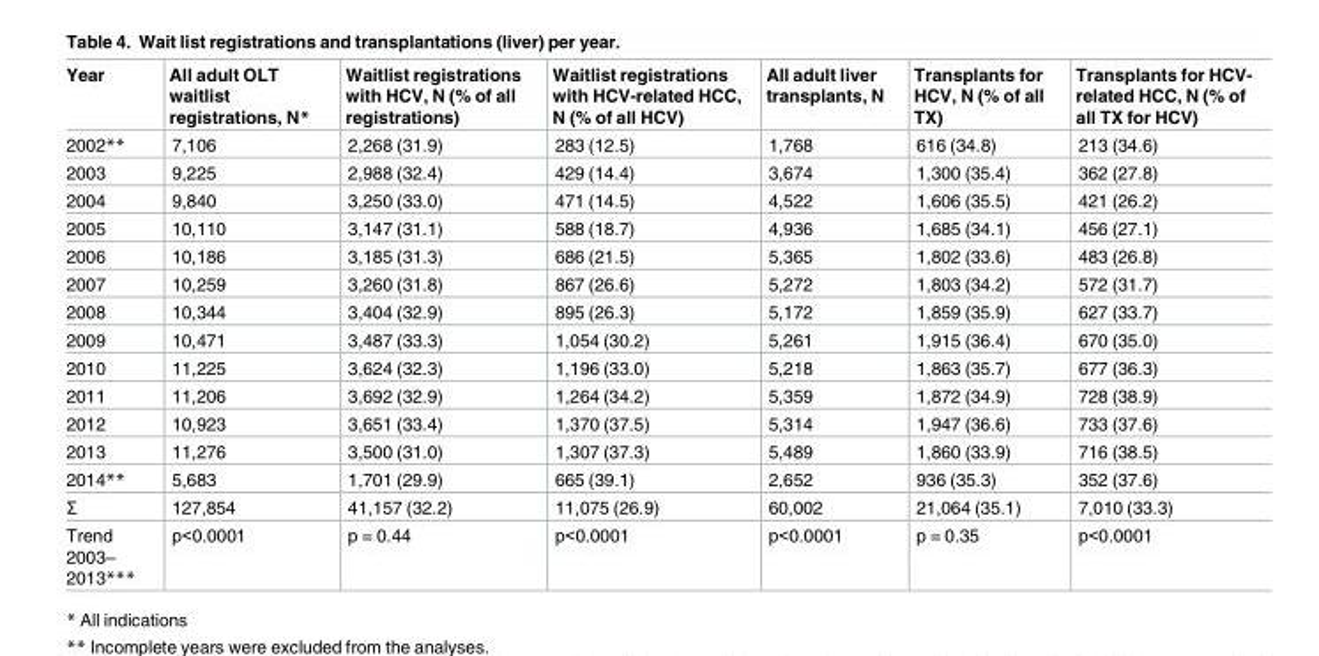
<table><thead><tr><td>Year</td><td>All adult OLT waitlist registrations, N*</td><td>Waitlist registrations with HCV, N (% of all registrations)</td><td>Waitlist registrations with HCV-related HCC, N (% of all HCV)</td><td>All adult liver transplants, N</td><td>Transplants for HCV, N (% of all TX)</td><td>Transplants for HCV- related HCC, N (% of all TX for HCV)</td></tr></thead><tbody><tr><td>2002**</td><td>7,106</td><td>2,268 (31.9)</td><td>283 (12.5)</td><td>1,768</td><td>616 (34.8)</td><td>213 (34.6)</td></tr><tr><td>2003</td><td>9,225</td><td>2,988 (32.4)</td><td>429 (14.4)</td><td>3,674</td><td>1,300 (35.4)</td><td>362 (27.8)</td></tr><tr><td>2004</td><td>9,840</td><td>3,250 (33.0)</td><td>471 (14.5)</td><td>4,522</td><td>1,606 (35.5)</td><td>421 (26.2)</td></tr><tr><td>2005</td><td>10,110</td><td>3,147 (31.1)</td><td>588 (18.7)</td><td>4,936</td><td>1,685 (34.1)</td><td>456 (27.1)</td></tr><tr><td>2006</td><td>10,186</td><td>3,185 (31.3)</td><td>686 (21.5)</td><td>5,365</td><td>1,802 (33.6)</td><td>483 (26.8)</td></tr><tr><td>2007</td><td>10,259</td><td>3,260 (31.8)</td><td>867 (26.6)</td><td>5,272</td><td>1,803 (34.2)</td><td>572 (31.7)</td></tr><tr><td>2008</td><td>10,344</td><td>3,404 (32.9)</td><td>895 (26.3)</td><td>5,172</td><td>1,859 (35.9)</td><td>627 (33.7)</td></tr><tr><td>2009</td><td>10,471</td><td>3,487 (33.3)</td><td>1,054 (30.2)</td><td>5,261</td><td>1,915 (36.4)</td><td>670 (35.0)</td></tr><tr><td>2010</td><td>11,225</td><td>3,624 (32.3)</td><td>1,196 (33.0)</td><td>5,218</td><td>1,863 (35.7)</td><td>677 (36.3)</td></tr><tr><td>2011</td><td>11,206</td><td>3,692 (32.9)</td><td>1,264 (34.2)</td><td>5,359</td><td>1,872 (34.9)</td><td>728 (38.9)</td></tr><tr><td>2012</td><td>10,923</td><td>3,651 (33.4)</td><td>1,370 (37.5)</td><td>5,314</td><td>1,947 (36.6)</td><td>733 (37.6)</td></tr><tr><td>2013</td><td>11,276</td><td>3,500 (31.0)</td><td>1,307 (37.3)</td><td>5,489</td><td>1,860 (33.9)</td><td>716 (38.5)</td></tr><tr><td>2014**</td><td>5,683</td><td>1,701 (29.9)</td><td>665 (39.1)</td><td>2,652</td><td>936 (35.3)</td><td>352 (37.6)</td></tr><tr><td>Σ</td><td>127,854</td><td>41,157 (32.2)</td><td>11,075 (26.9)</td><td>60,002</td><td>21,064 (35.1)</td><td>7,010 (33.3)</td></tr><tr><td>Trend 2003– 2013***</td><td>p&lt;0.0001</td><td>p = 0.44</td><td>p&lt;0.0001</td><td>p&lt;0.0001</td><td>p = 0.35</td><td>p&lt;0.0001</td></tr></tbody></table>